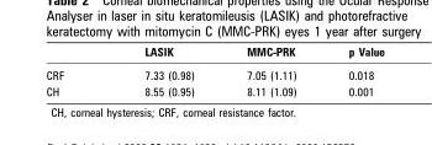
<table><thead><tr><td></td><td>LASIK</td><td>MMC-PRK</td><td>p Value</td></tr></thead><tbody><tr><td>CRF</td><td>7.33 (0.98)</td><td>7.05 (1.11)</td><td>0.018</td></tr><tr><td>CH</td><td>8.55 (0.95)</td><td>8.11 (1.09)</td><td>0.001</td></tr></tbody></table>